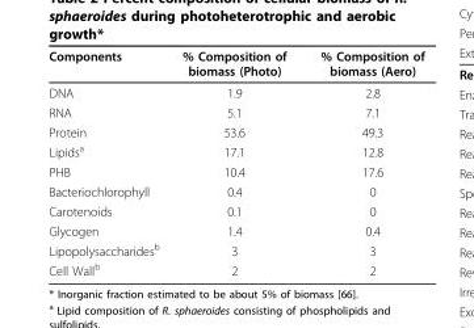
<table><thead><tr><td>Components</td><td>% Composition of biomass (Photo)</td><td>% Composition of biomass (Aero)</td></tr></thead><tbody><tr><td>DNA</td><td>1.9</td><td>2.8</td></tr><tr><td>RNA</td><td>5.1</td><td>7.1</td></tr><tr><td>Protein</td><td>53.6</td><td>49.3</td></tr><tr><td>Lipids<sup>a</sup></td><td>17.1</td><td>12.8</td></tr><tr><td>PHB</td><td>10.4</td><td>17.6</td></tr><tr><td>Bacteriochlorophyll</td><td>0.4</td><td>0</td></tr><tr><td>Carotenoids</td><td>0.1</td><td>0</td></tr><tr><td>Glycogen</td><td>1.4</td><td>0.4</td></tr><tr><td>Lipopolysaccharides<sup>b</sup></td><td>3</td><td>3</td></tr><tr><td>Cell Wall<sup>b</sup></td><td>2</td><td>2</td></tr></tbody></table>